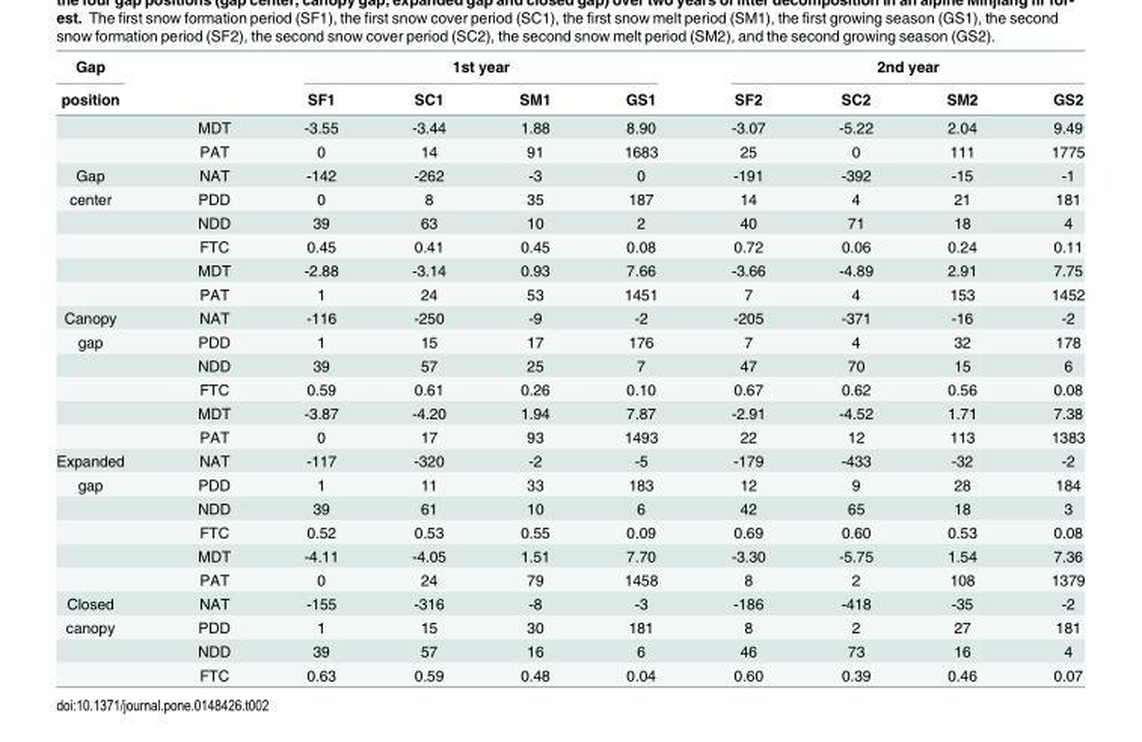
<table><thead><tr><td rowspan="2">Gap position</td><td rowspan="2"></td><td colspan="4">1st year</td><td colspan="4">2nd year</td></tr><tr><td>SF1</td><td>SC1</td><td>SM1</td><td>GS1</td><td>SF2</td><td>SC2</td><td>SM2</td><td>GS2</td></tr></thead><tbody><tr><td></td><td>MDT</td><td>-3.55</td><td>-3.44</td><td>1.88</td><td>8.90</td><td>-3.07</td><td>-5.22</td><td>2.04</td><td>9.49</td></tr><tr><td></td><td>PAT</td><td>0</td><td>14</td><td>91</td><td>1683</td><td>25</td><td>0</td><td>111</td><td>1775</td></tr><tr><td>Gap</td><td>NAT</td><td>-142</td><td>-262</td><td>-3</td><td>0</td><td>-191</td><td>-392</td><td>-15</td><td>-1</td></tr><tr><td rowspan="5">center</td><td>PDD</td><td>0</td><td>8</td><td>35</td><td>187</td><td>14</td><td>4</td><td>21</td><td>181</td></tr><tr><td>NDD</td><td>39</td><td>63</td><td>10</td><td>2</td><td>40</td><td>71</td><td>18</td><td>4</td></tr><tr><td>FTC</td><td>0.45</td><td>0.41</td><td>0.45</td><td>0.08</td><td>0.72</td><td>0.06</td><td>0.24</td><td>0.11</td></tr><tr><td>MDT</td><td>-2.88</td><td>-3.14</td><td>0.93</td><td>7.66</td><td>-3.66</td><td>-4.89</td><td>2.91</td><td>7.75</td></tr><tr><td>PAT</td><td>1</td><td>24</td><td>53</td><td>1451</td><td>7</td><td>4</td><td>153</td><td>1452</td></tr><tr><td>Canopy</td><td>NAT</td><td>-116</td><td>-250</td><td>-9</td><td>-2</td><td>-205</td><td>-371</td><td>-16</td><td>-2</td></tr><tr><td rowspan="5">gap</td><td>PDD</td><td>1</td><td>15</td><td>17</td><td>176</td><td>7</td><td>4</td><td>32</td><td>178</td></tr><tr><td>NDD</td><td>39</td><td>57</td><td>25</td><td>7</td><td>47</td><td>70</td><td>15</td><td>6</td></tr><tr><td>FTC</td><td>0.59</td><td>0.61</td><td>0.26</td><td>0.10</td><td>0.67</td><td>0.62</td><td>0.56</td><td>0.08</td></tr><tr><td>MDT</td><td>-3.87</td><td>-4.20</td><td>1.94</td><td>7.87</td><td>-2.91</td><td>-4.52</td><td>1.71</td><td>7.38</td></tr><tr><td>PAT</td><td>0</td><td>17</td><td>93</td><td>1493</td><td>22</td><td>12</td><td>113</td><td>1383</td></tr><tr><td>Expanded</td><td>NAT</td><td>-117</td><td>-320</td><td>-2</td><td>-5</td><td>-179</td><td>-433</td><td>-32</td><td>-2</td></tr><tr><td rowspan="5">gap</td><td>PDD</td><td>1</td><td>11</td><td>33</td><td>183</td><td>12</td><td>9</td><td>28</td><td>184</td></tr><tr><td>NDD</td><td>39</td><td>61</td><td>10</td><td>6</td><td>42</td><td>65</td><td>18</td><td>3</td></tr><tr><td>FTC</td><td>0.52</td><td>0.53</td><td>0.55</td><td>0.09</td><td>0.69</td><td>0.60</td><td>0.53</td><td>0.08</td></tr><tr><td>MDT</td><td>-4.11</td><td>-4.05</td><td>1.51</td><td>7.70</td><td>-3.30</td><td>-5.75</td><td>1.54</td><td>7.36</td></tr><tr><td>PAT</td><td>0</td><td>24</td><td>79</td><td>1458</td><td>8</td><td>2</td><td>108</td><td>1379</td></tr><tr><td>Closed</td><td>NAT</td><td>-155</td><td>-316</td><td>-8</td><td>-3</td><td>-186</td><td>-418</td><td>-35</td><td>-2</td></tr><tr><td rowspan="3">canopy</td><td>PDD</td><td>1</td><td>15</td><td>30</td><td>181</td><td>8</td><td>2</td><td>27</td><td>181</td></tr><tr><td>NDD</td><td>39</td><td>57</td><td>16</td><td>6</td><td>46</td><td>73</td><td>16</td><td>4</td></tr><tr><td>FTC</td><td>0.63</td><td>0.59</td><td>0.48</td><td>0.04</td><td>0.60</td><td>0.39</td><td>0.46</td><td>0.07</td></tr></tbody></table>